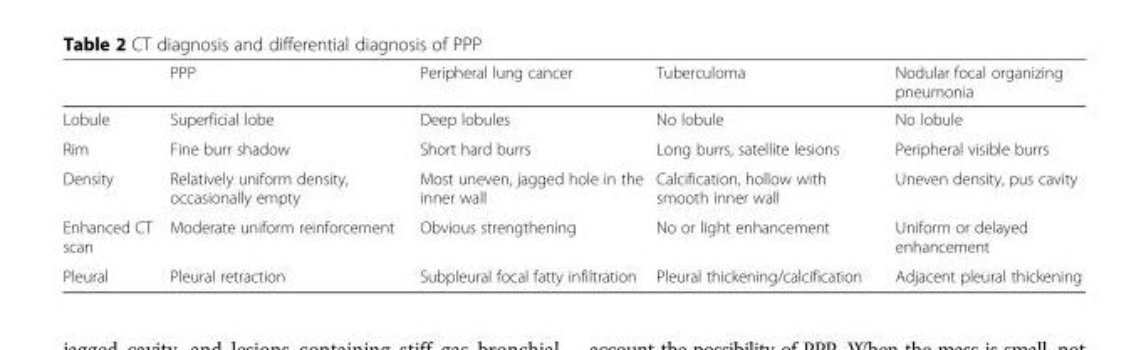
<table><thead><tr><td></td><td>PPP</td><td>Peripheral lung cancer</td><td>Tuberculoma</td><td>Nodular focal organizing pneumonia</td></tr></thead><tbody><tr><td>Lobule</td><td>Superficial lobe</td><td>Deep lobules</td><td>No lobule</td><td>No lobule</td></tr><tr><td>Rim</td><td>Fine burr shadow</td><td>Short hard burrs</td><td>Long burrs, satellite lesions</td><td>Peripheral visible burrs</td></tr><tr><td>Density</td><td>Relatively uniform density, occasionally empty</td><td>Most uneven, jagged hole in the inner wall</td><td>Calcification, hollow with smooth inner wall</td><td>Uneven density, pus cavity</td></tr><tr><td>Enhanced CT scan</td><td>Moderate uniform reinforcement</td><td>Obvious strengthening</td><td>No or light enhancement</td><td>Uniform or delayed enhancement</td></tr><tr><td>Pleural</td><td>Pleural retraction</td><td>Subpleural focal fatty infiltration</td><td>Pleural thickening/calcification</td><td>Adjacent pleural thickening</td></tr></tbody></table>